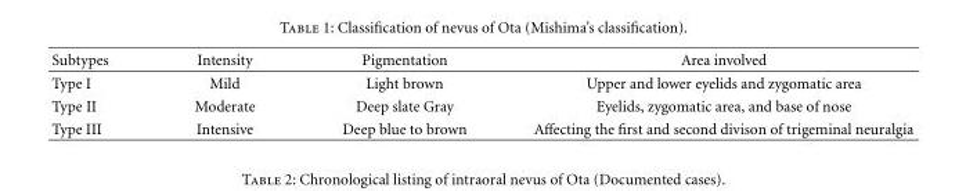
<table><thead><tr><td>Subtypes</td><td>Intensity</td><td>Pigmentation</td><td>Area involved</td></tr></thead><tbody><tr><td>Type I</td><td>Mild</td><td>Light brown</td><td>Upper and lower eyelids and zygomatic area</td></tr><tr><td>Type II</td><td>Moderate</td><td>Deep slate Gray</td><td>Eyelids, zygomatic area, and base of nose</td></tr><tr><td>Type III</td><td>Intensive</td><td>Deep blue to brown</td><td>Affecting the first and second divison of trigeminal neuralgia</td></tr></tbody></table>